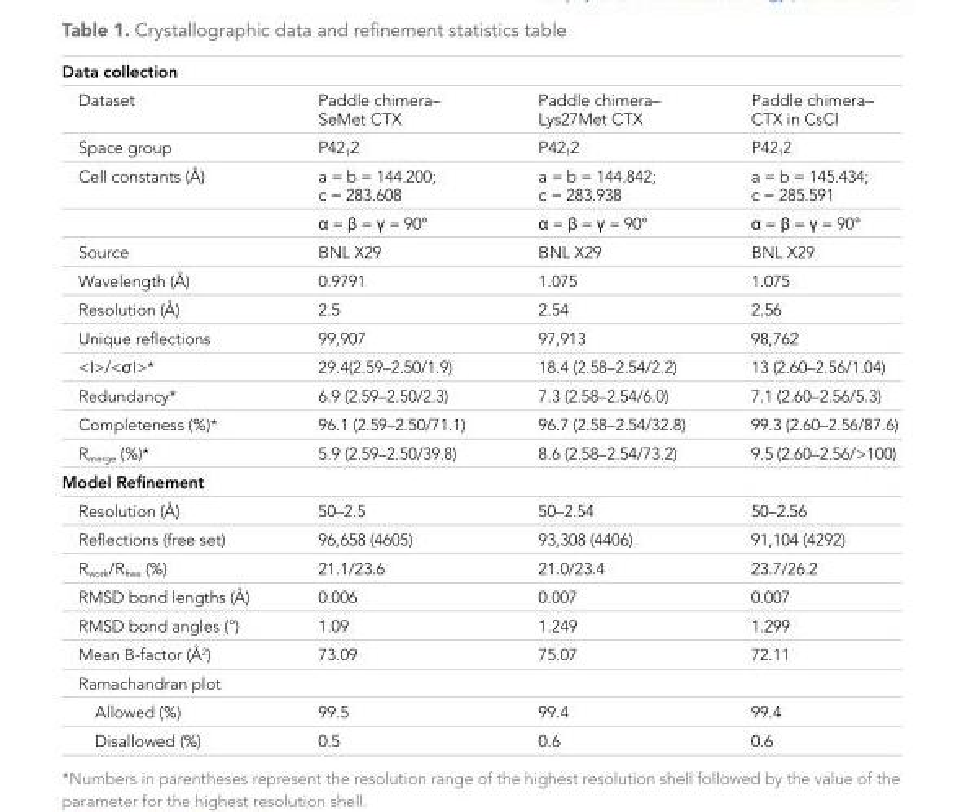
<table><tbody><tr><td colspan="4">Data collection</td></tr><tr><td>Dataset</td><td>Paddle chimera– SeMet CTX</td><td>Paddle chimera– Lys27Met CTX</td><td>Paddle chimera– CTX in CsCl</td></tr><tr><td>Space group</td><td>P42<sub>1</sub>2</td><td>P42<sub>1</sub>2</td><td>P42<sub>1</sub>2</td></tr><tr><td rowspan="2">Cell constants (Å)</td><td>a = b = 144.200; c = 283.608</td><td>a = b = 144.842; c = 283.938</td><td>a = b = 145.434; c = 285.591</td></tr><tr><td>α = β = γ = 90°</td><td>α = β = γ = 90°</td><td>α = β = γ = 90°</td></tr><tr><td>Source</td><td>BNL X29</td><td>BNL X29</td><td>BNL X29</td></tr><tr><td>Wavelength (Å)</td><td>0.9791</td><td>1.075</td><td>1.075</td></tr><tr><td>Resolution (Å)</td><td>2.5</td><td>2.54</td><td>2.56</td></tr><tr><td>Unique reflections</td><td>99,907</td><td>97,913</td><td>98,762</td></tr><tr><td>&lt;I&gt;/&lt;σI&gt;*</td><td>29.4(2.59–2.50/1.9)</td><td>18.4 (2.58–2.54/2.2)</td><td>13 (2.60–2.56/1.04)</td></tr><tr><td>Redundancy*</td><td>6.9 (2.59–2.50/2.3)</td><td>7.3 (2.58–2.54/6.0)</td><td>7.1 (2.60–2.56/5.3)</td></tr><tr><td>Completeness (%)*</td><td>96.1 (2.59–2.50/71.1)</td><td>96.7 (2.58–2.54/32.8)</td><td>99.3 (2.60–2.56/87.6)</td></tr><tr><td>R<sub>merge</sub> (%)*</td><td>5.9 (2.59–2.50/39.8)</td><td>8.6 (2.58–2.54/73.2)</td><td>9.5 (2.60–2.56/&gt;100)</td></tr><tr><td colspan="4">Model Refinement</td></tr><tr><td>Resolution (Å)</td><td>50–2.5</td><td>50–2.54</td><td>50–2.56</td></tr><tr><td>Reflections (free set)</td><td>96,658 (4605)</td><td>93,308 (4406)</td><td>91,104 (4292)</td></tr><tr><td>R<sub>work</sub>/R<sub>free</sub> (%)</td><td>21.1/23.6</td><td>21.0/23.4</td><td>23.7/26.2</td></tr><tr><td>RMSD bond lengths (Å)</td><td>0.006</td><td>0.007</td><td>0.007</td></tr><tr><td>RMSD bond angles (°)</td><td>1.09</td><td>1.249</td><td>1.299</td></tr><tr><td>Mean B-factor (Å<sup>2</sup>)</td><td>73.09</td><td>75.07</td><td>72.11</td></tr><tr><td colspan="4">Ramachandran plot</td></tr><tr><td>Allowed (%)</td><td>99.5</td><td>99.4</td><td>99.4</td></tr><tr><td>Disallowed (%)</td><td>0.5</td><td>0.6</td><td>0.6</td></tr></tbody></table>